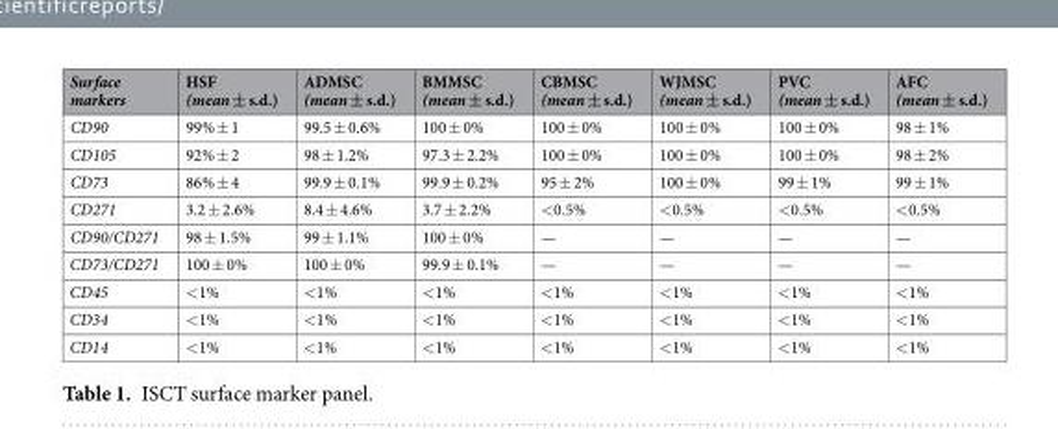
<table><thead><tr><td>Surface markers</td><td>HSF (mean ± s.d.)</td><td>ADMSC (mean ± s.d.)</td><td>BMMSC (mean ± s.d.)</td><td>CBMSC (mean ± s.d.)</td><td>WJMSC (mean ± s.d.)</td><td>PVC (mean ± s.d.)</td><td>AFC (mean ± s.d.)</td></tr></thead><tbody><tr><td>CD90</td><td>99% ± 1</td><td>99.5 ± 0.6%</td><td>100 ± 0%</td><td>100 ± 0%</td><td>100 ± 0%</td><td>100 ± 0%</td><td>98 ± 1%</td></tr><tr><td>CD105</td><td>92% ± 2</td><td>98 ± 1.2%</td><td>97.3 ± 2.2%</td><td>100 ± 0%</td><td>100 ± 0%</td><td>100 ± 0%</td><td>98 ± 2%</td></tr><tr><td>CD73</td><td>86% ± 4</td><td>99.9 ± 0.1%</td><td>99.9 ± 0.2%</td><td>95 ± 2%</td><td>100 ± 0%</td><td>99 ± 1%</td><td>99 ± 1%</td></tr><tr><td>CD271</td><td>3.2 ± 2.6%</td><td>8.4 ± 4.6%</td><td>3.7 ± 2.2%</td><td>&lt;0.5%</td><td>&lt;0.5%</td><td>&lt;0.5%</td><td>&lt;0.5%</td></tr><tr><td>CD90/CD271</td><td>98 ± 1.5%</td><td>99 ± 1.1%</td><td>100 ± 0%</td><td>—</td><td>—</td><td>—</td><td>—</td></tr><tr><td>CD73/CD271</td><td>100 ± 0%</td><td>100 ± 0%</td><td>99.9 ± 0.1%</td><td>—</td><td>—</td><td>—</td><td>—</td></tr><tr><td>CD45</td><td>&lt;1%</td><td>&lt;1%</td><td>&lt;1%</td><td>&lt;1%</td><td>&lt;1%</td><td>&lt;1%</td><td>&lt;1%</td></tr><tr><td>CD34</td><td>&lt;1%</td><td>&lt;1%</td><td>&lt;1%</td><td>&lt;1%</td><td>&lt;1%</td><td>&lt;1%</td><td>&lt;1%</td></tr><tr><td>CD14</td><td>&lt;1%</td><td>&lt;1%</td><td>&lt;1%</td><td>&lt;1%</td><td>&lt;1%</td><td>&lt;1%</td><td>&lt;1%</td></tr></tbody></table>